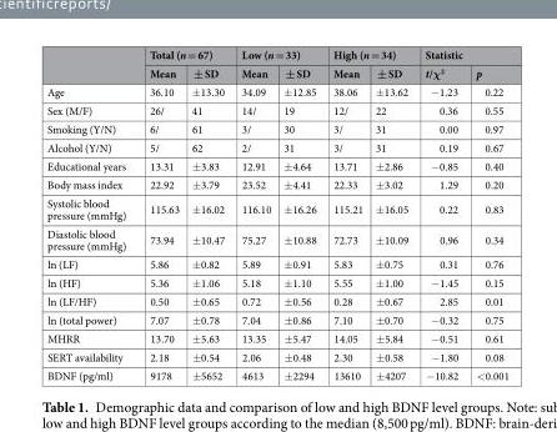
<table><thead><tr><td rowspan="2"></td><td colspan="2">Total (n = 67)</td><td colspan="2">Low (n = 33)</td><td colspan="2">High (n = 34)</td><td colspan="2">Statistic</td></tr><tr><td>Mean</td><td>± SD</td><td>Mean</td><td>± SD</td><td>Mean</td><td>± SD</td><td>t/χ<sup>2</sup></td><td>p</td></tr></thead><tbody><tr><td>Age</td><td>36.10</td><td>±13.30</td><td>34.09</td><td>±12.85</td><td>38.06</td><td>±13.62</td><td>−1.23</td><td>0.22</td></tr><tr><td>Sex (M/F)</td><td>26/</td><td>41</td><td>14/</td><td>19</td><td>12/</td><td>22</td><td>0.36</td><td>0.55</td></tr><tr><td>Smoking (Y/N)</td><td>6/</td><td>61</td><td>3/</td><td>30</td><td>3/</td><td>31</td><td>0.00</td><td>0.97</td></tr><tr><td>Alcohol (Y/N)</td><td>5/</td><td>62</td><td>2/</td><td>31</td><td>3/</td><td>31</td><td>0.19</td><td>0.67</td></tr><tr><td>Educational years</td><td>13.31</td><td>±3.83</td><td>12.91</td><td>±4.64</td><td>13.71</td><td>±2.86</td><td>−0.85</td><td>0.40</td></tr><tr><td>Body mass index</td><td>22.92</td><td>±3.79</td><td>23.52</td><td>±4.41</td><td>22.33</td><td>±3.02</td><td>1.29</td><td>0.20</td></tr><tr><td>Systolic blood pressure (mmHg)</td><td>115.63</td><td>±16.02</td><td>116.10</td><td>±16.26</td><td>115.21</td><td>±16.05</td><td>0.22</td><td>0.83</td></tr><tr><td>Diastolic blood pressure (mmHg)</td><td>73.94</td><td>±10.47</td><td>75.27</td><td>±10.88</td><td>72.73</td><td>±10.09</td><td>0.96</td><td>0.34</td></tr><tr><td>ln (LF)</td><td>5.86</td><td>±0.82</td><td>5.89</td><td>±0.91</td><td>5.83</td><td>±0.75</td><td>0.31</td><td>0.76</td></tr><tr><td>ln (HF)</td><td>5.36</td><td>±1.06</td><td>5.18</td><td>±1.10</td><td>5.55</td><td>±1.00</td><td>−1.45</td><td>0.15</td></tr><tr><td>ln (LF/HF)</td><td>0.50</td><td>±0.65</td><td>0.72</td><td>±0.56</td><td>0.28</td><td>±0.67</td><td>2.85</td><td>0.01</td></tr><tr><td>ln (total power)</td><td>7.07</td><td>±0.78</td><td>7.04</td><td>±0.86</td><td>7.10</td><td>±0.70</td><td>−0.32</td><td>0.75</td></tr><tr><td>MHRR</td><td>13.70</td><td>±5.63</td><td>13.35</td><td>±5.47</td><td>14.05</td><td>±5.84</td><td>−0.51</td><td>0.61</td></tr><tr><td>SERT availability</td><td>2.18</td><td>±0.54</td><td>2.06</td><td>±0.48</td><td>2.30</td><td>±0.58</td><td>−1.80</td><td>0.08</td></tr><tr><td>BDNF (pg/ml)</td><td>9178</td><td>±5652</td><td>4613</td><td>±2294</td><td>13610</td><td>±4207</td><td>−10.82</td><td>&lt;0.001</td></tr></tbody></table>